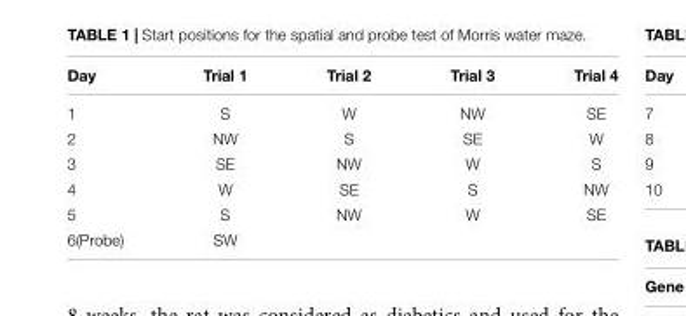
<table><thead><tr><td>Day</td><td>Trial 1</td><td>Trial 2</td><td>Trial 3</td><td>Trial 4</td></tr></thead><tbody><tr><td>1</td><td>S</td><td>W</td><td>NW</td><td>SE</td></tr><tr><td>2</td><td>NW</td><td>S</td><td>SE</td><td>W</td></tr><tr><td>3</td><td>SE</td><td>NW</td><td>W</td><td>S</td></tr><tr><td>4</td><td>W</td><td>SE</td><td>S</td><td>NW</td></tr><tr><td>5</td><td>S</td><td>NW</td><td>W</td><td>SE</td></tr><tr><td>6(Probe)</td><td>SW</td><td></td><td></td><td></td></tr></tbody></table>